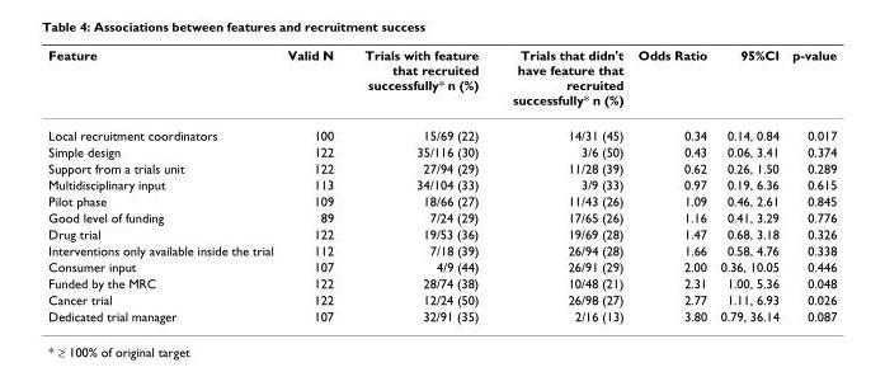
<table><thead><tr><td>Feature</td><td>Valid N</td><td>Trials with feature that recruited successfully* n (%)</td><td>Trials that didn&#x27;t have feature that recruited successfully* n (%)</td><td>Odds Ratio</td><td>95%CI</td><td>p-value</td></tr></thead><tbody><tr><td>Local recruitment coordinators</td><td>100</td><td>15/69 (22)</td><td>14/31 (45)</td><td>0.34</td><td>0.14, 0.84</td><td>0.017</td></tr><tr><td>Simple design</td><td>122</td><td>35/116 (30)</td><td>3/6 (50)</td><td>0.43</td><td>0.06, 3.41</td><td>0.374</td></tr><tr><td>Support from a trials unit</td><td>122</td><td>27/94 (29)</td><td>11/28 (39)</td><td>0.62</td><td>0.26, 1.50</td><td>0.289</td></tr><tr><td>Multidisciplinary input</td><td>113</td><td>34/104 (33)</td><td>3/9 (33)</td><td>0.97</td><td>0.19, 6.36</td><td>0.615</td></tr><tr><td>Pilot phase</td><td>109</td><td>18/66 (27)</td><td>11/43 (26)</td><td>1.09</td><td>0.46, 2.61</td><td>0.845</td></tr><tr><td>Good level of funding</td><td>89</td><td>7/24 (29)</td><td>17/65 (26)</td><td>1.16</td><td>0.41, 3.29</td><td>0.776</td></tr><tr><td>Drug trial</td><td>122</td><td>19/53 (36)</td><td>19/69 (28)</td><td>1.47</td><td>0.68, 3.18</td><td>0.326</td></tr><tr><td>Interventions only available inside the trial</td><td>112</td><td>7/18 (39)</td><td>26/94 (28)</td><td>1.66</td><td>0.58, 4.76</td><td>0.338</td></tr><tr><td>Consumer input</td><td>107</td><td>4/9 (44)</td><td>26/91 (29)</td><td>2.00</td><td>0.36, 10.05</td><td>0.446</td></tr><tr><td>Funded by the MRC</td><td>122</td><td>28/74 (38)</td><td>10/48 (21)</td><td>2.31</td><td>1.00, 5.36</td><td>0.048</td></tr><tr><td>Cancer trial</td><td>122</td><td>12/24 (50)</td><td>26/98 (27)</td><td>2.77</td><td>1.11, 6.93</td><td>0.026</td></tr><tr><td>Dedicated trial manager</td><td>107</td><td>32/91 (35)</td><td>2/16 (13)</td><td>3.80</td><td>0.79, 36.14</td><td>0.087</td></tr></tbody></table>